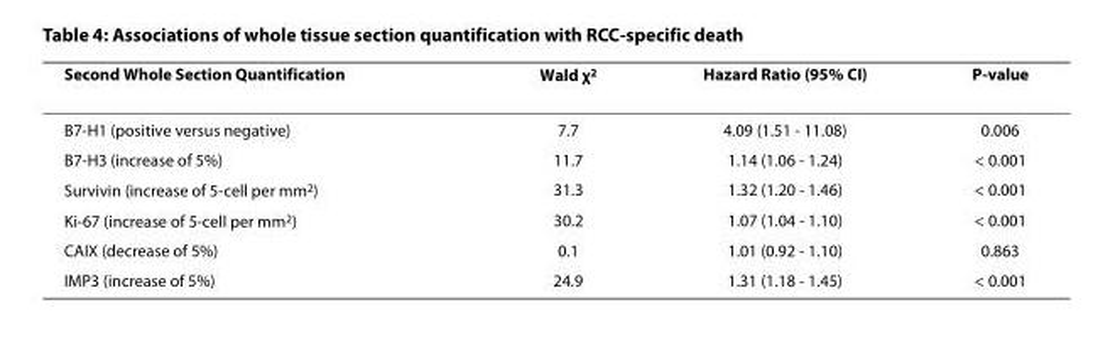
<table><thead><tr><td>Second Whole Section Quantification</td><td>Wald χ<sup>2</sup></td><td>Hazard Ratio (95% CI)</td><td>P-value</td></tr></thead><tbody><tr><td>B7-H1 (positive versus negative)</td><td>7.7</td><td>4.09 (1.51 - 11.08)</td><td>0.006</td></tr><tr><td>B7-H3 (increase of 5%)</td><td>11.7</td><td>1.14 (1.06 - 1.24)</td><td>&lt; 0.001</td></tr><tr><td>Survivin (increase of 5-cell per mm<sup>2</sup>)</td><td>31.3</td><td>1.32 (1.20 - 1.46)</td><td>&lt; 0.001</td></tr><tr><td>Ki-67 (increase of 5-cell per mm<sup>2</sup>)</td><td>30.2</td><td>1.07 (1.04 - 1.10)</td><td>&lt; 0.001</td></tr><tr><td>CAIX (decrease of 5%)</td><td>0.1</td><td>1.01 (0.92 - 1.10)</td><td>0.863</td></tr><tr><td>IMP3 (increase of 5%)</td><td>24.9</td><td>1.31 (1.18 - 1.45)</td><td>&lt; 0.001</td></tr></tbody></table>